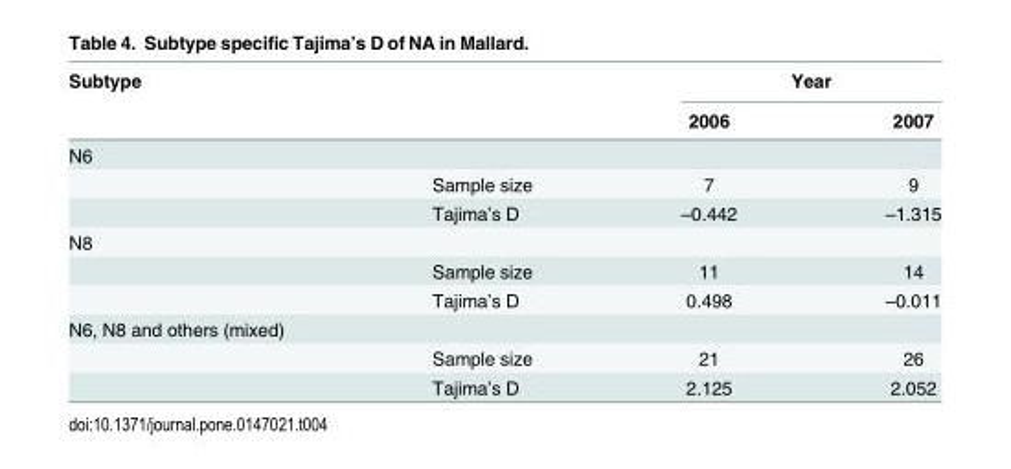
<table><thead><tr><td rowspan="2">Subtype</td><td rowspan="2"></td><td colspan="2">Year</td></tr><tr><td>2006</td><td>2007</td></tr></thead><tbody><tr><td colspan="4">N6</td></tr><tr><td></td><td>Sample size</td><td>7</td><td>9</td></tr><tr><td></td><td>Tajima’s D</td><td>–0.442</td><td>–1.315</td></tr><tr><td colspan="4">N8</td></tr><tr><td></td><td>Sample size</td><td>11</td><td>14</td></tr><tr><td></td><td>Tajima’s D</td><td>0.498</td><td>–0.011</td></tr><tr><td colspan="4">N6, N8 and others (mixed)</td></tr><tr><td></td><td>Sample size</td><td>21</td><td>26</td></tr><tr><td></td><td>Tajima’s D</td><td>2.125</td><td>2.052</td></tr></tbody></table>